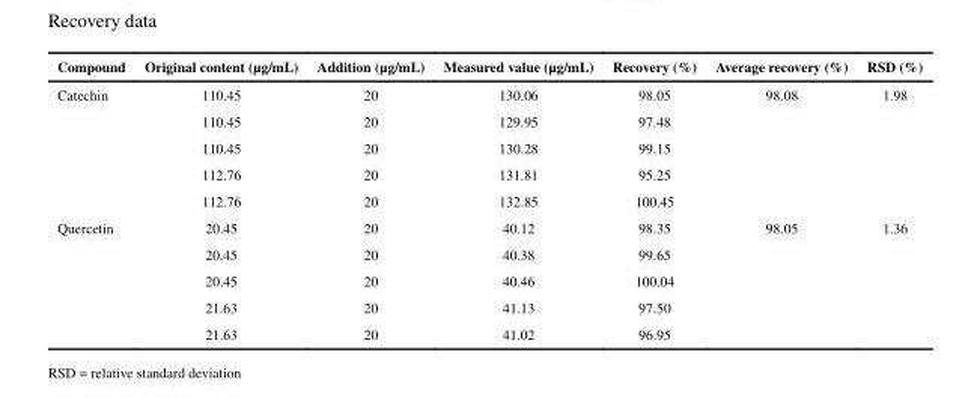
<table><thead><tr><td>Compound</td><td>Original content (μg/mL)</td><td>Addition (μg/mL)</td><td>Measured value (μg/mL)</td><td>Recovery (%)</td><td>Average recovery (%)</td><td>RSD (%)</td></tr></thead><tbody><tr><td rowspan="5">Catechin</td><td>110.45</td><td>20</td><td>130.06</td><td>98.05</td><td>98.08</td><td>1.98</td></tr><tr><td>110.45</td><td>20</td><td>129.95</td><td>97.48</td><td></td><td></td></tr><tr><td>110.45</td><td>20</td><td>130.28</td><td>99.15</td><td></td><td></td></tr><tr><td>112.76</td><td>20</td><td>131.81</td><td>95.25</td><td></td><td></td></tr><tr><td>112.76</td><td>20</td><td>132.85</td><td>100.45</td><td></td><td></td></tr><tr><td rowspan="5">Quercetin</td><td>20.45</td><td>20</td><td>40.12</td><td>98.35</td><td>98.05</td><td>1.36</td></tr><tr><td>20.45</td><td>20</td><td>40.38</td><td>99.65</td><td></td><td></td></tr><tr><td>20.45</td><td>20</td><td>40.46</td><td>100.04</td><td></td><td></td></tr><tr><td>21.63</td><td>20</td><td>41.13</td><td>97.50</td><td></td><td></td></tr><tr><td>21.63</td><td>20</td><td>41.02</td><td>96.95</td><td></td><td></td></tr></tbody></table>